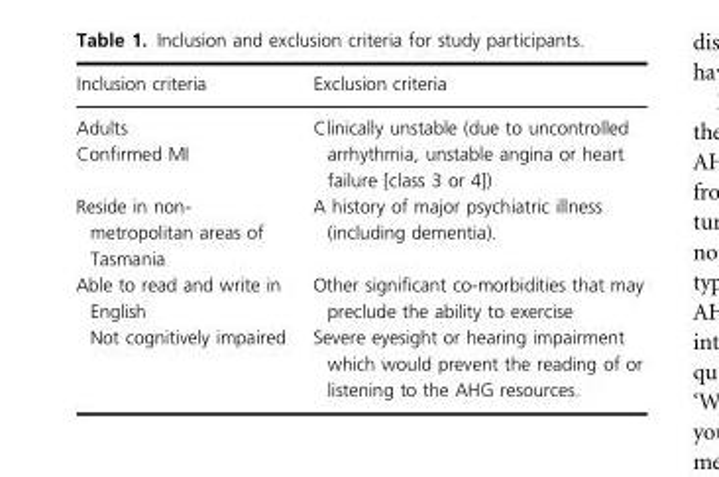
<table><thead><tr><td>Inclusion criteria</td><td>Exclusion criteria</td></tr></thead><tbody><tr><td>Adults Confirmed MI Reside in non- metropolitan areas of Tasmania Able to read and write in English Not cognitively impaired</td><td>Clinically unstable (due to uncontrolled arrhythmia, unstable angina or heart failure [class 3 or 4]) A history of major psychiatric illness (including dementia). Other significant co-morbidities that may preclude the ability to exercise Severe eyesight or hearing impairment which would prevent the reading of or listening to the AHG resources.</td></tr></tbody></table>